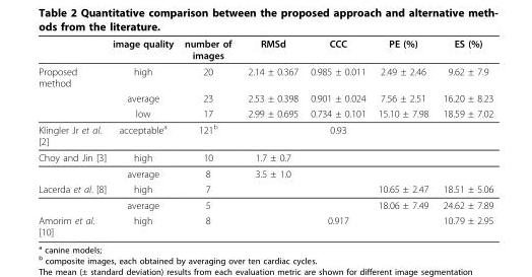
<table><thead><tr><td></td><td>image quality</td><td>number of images</td><td>RMSd</td><td>CCC</td><td>PE (%)</td><td>ES (%)</td></tr></thead><tbody><tr><td rowspan="3">Proposed method</td><td>high</td><td>20</td><td>2.14 ± 0.367</td><td>0.985 ± 0.011</td><td>2.49 ± 2.46</td><td>9.62 ± 7.9</td></tr><tr><td>average</td><td>23</td><td>2.53 ± 0.398</td><td>0.901 ± 0.024</td><td>7.56 ± 2.51</td><td>16.20 ± 8.23</td></tr><tr><td>low</td><td>17</td><td>2.99 ± 0.695</td><td>0.734 ± 0.101</td><td>15.10 ± 7.98</td><td>18.59 ± 7.02</td></tr><tr><td>Klingler Jr et al. [2]</td><td>acceptable<sup>a</sup></td><td>121<sup>b</sup></td><td></td><td>0.93</td><td></td><td></td></tr><tr><td rowspan="2">Choy and Jin [3]</td><td>high</td><td>10</td><td>1.7 ± 0.7</td><td></td><td></td><td></td></tr><tr><td>average</td><td>8</td><td>3.5 ± 1.0</td><td></td><td></td><td></td></tr><tr><td rowspan="2">Lacerda et al. [8]</td><td>high</td><td>7</td><td></td><td></td><td>10.65 ± 2.47</td><td>18.51 ± 5.06</td></tr><tr><td>average</td><td>5</td><td></td><td></td><td>18.06 ± 7.49</td><td>24.62 ± 7.89</td></tr><tr><td>Amorim et al. [10]</td><td>high</td><td>8</td><td></td><td>0.917</td><td></td><td>10.79 ± 2.95</td></tr></tbody></table>